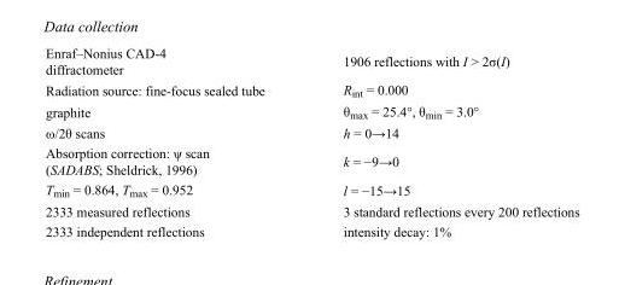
<table><tbody><tr><td>Enraf–Nonius CAD-4 diffractometer</td><td>1906 reflections with I &gt; 2σ(I)</td></tr><tr><td>Radiation source: fine-focus sealed tube</td><td>R<sub>int</sub> = 0.000</td></tr><tr><td>graphite</td><td>θ<sub>max</sub> = 25.4°, θ<sub>min</sub> = 3.0°</td></tr><tr><td>ω/2θ scans</td><td>h = 0→14</td></tr><tr><td>Absorption correction: ψ scan (SADABS; Sheldrick, 1996)</td><td>k = −9→0</td></tr><tr><td>T<sub>min</sub> = 0.864, T<sub>max</sub> = 0.952</td><td>l = −15→15</td></tr><tr><td>2333 measured reflections</td><td>3 standard reflections every 200 reflections</td></tr><tr><td>2333 independent reflections</td><td>intensity decay: 1%</td></tr></tbody></table>